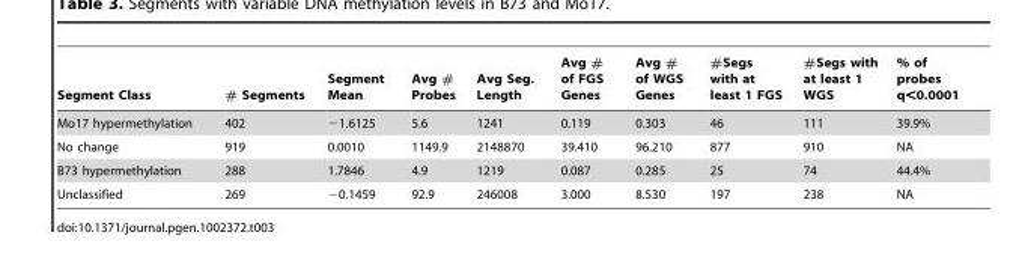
<table><thead><tr><td>Segment Class</td><td># Segments</td><td>Segment Mean</td><td>Avg # Probes</td><td>Avg Seg. Length</td><td>Avg # of FGS Genes</td><td>Avg # of WGS Genes</td><td>#Segs with at least 1 FGS</td><td>#Segs with at least 1 WGS</td><td>% of probes q&lt;0.0001</td></tr></thead><tbody><tr><td>Mo17 hypermethylation</td><td>402</td><td>−1.6125</td><td>5.6</td><td>1241</td><td>0.119</td><td>0.303</td><td>46</td><td>111</td><td>39.9%</td></tr><tr><td>No change</td><td>919</td><td>0.0010</td><td>1149.9</td><td>2148870</td><td>39.410</td><td>96.210</td><td>877</td><td>910</td><td>NA</td></tr><tr><td>B73 hypermethylation</td><td>288</td><td>1.7846</td><td>4.9</td><td>1219</td><td>0.087</td><td>0.285</td><td>25</td><td>74</td><td>44.4%</td></tr><tr><td>Unclassified</td><td>269</td><td>−0.1459</td><td>92.9</td><td>246008</td><td>3.000</td><td>8.530</td><td>197</td><td>238</td><td>NA</td></tr></tbody></table>